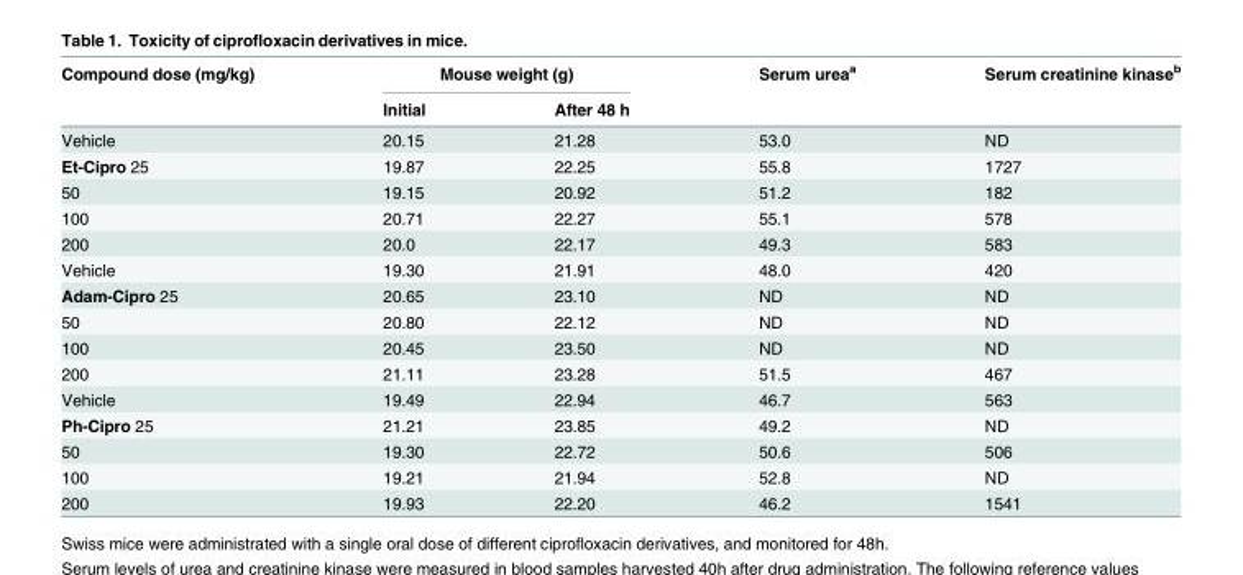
<table><thead><tr><td rowspan="2">Compound dose (mg/kg)</td><td colspan="2">Mouse weight (g)</td><td rowspan="2">Serum urea<sup>a</sup></td><td rowspan="2">Serum creatinine kinase<sup>b</sup></td></tr><tr><td>Initial</td><td>After 48 h</td></tr></thead><tbody><tr><td>Vehicle</td><td>20.15</td><td>21.28</td><td>53.0</td><td>ND</td></tr><tr><td>Et-Cipro 25</td><td>19.87</td><td>22.25</td><td>55.8</td><td>1727</td></tr><tr><td>50</td><td>19.15</td><td>20.92</td><td>51.2</td><td>182</td></tr><tr><td>100</td><td>20.71</td><td>22.27</td><td>55.1</td><td>578</td></tr><tr><td>200</td><td>20.0</td><td>22.17</td><td>49.3</td><td>583</td></tr><tr><td>Vehicle</td><td>19.30</td><td>21.91</td><td>48.0</td><td>420</td></tr><tr><td>Adam-Cipro 25</td><td>20.65</td><td>23.10</td><td>ND</td><td>ND</td></tr><tr><td>50</td><td>20.80</td><td>22.12</td><td>ND</td><td>ND</td></tr><tr><td>100</td><td>20.45</td><td>23.50</td><td>ND</td><td>ND</td></tr><tr><td>200</td><td>21.11</td><td>23.28</td><td>51.5</td><td>467</td></tr><tr><td>Vehicle</td><td>19.49</td><td>22.94</td><td>46.7</td><td>563</td></tr><tr><td>Ph-Cipro 25</td><td>21.21</td><td>23.85</td><td>49.2</td><td>ND</td></tr><tr><td>50</td><td>19.30</td><td>22.72</td><td>50.6</td><td>506</td></tr><tr><td>100</td><td>19.21</td><td>21.94</td><td>52.8</td><td>ND</td></tr><tr><td>200</td><td>19.93</td><td>22.20</td><td>46.2</td><td>1541</td></tr></tbody></table>